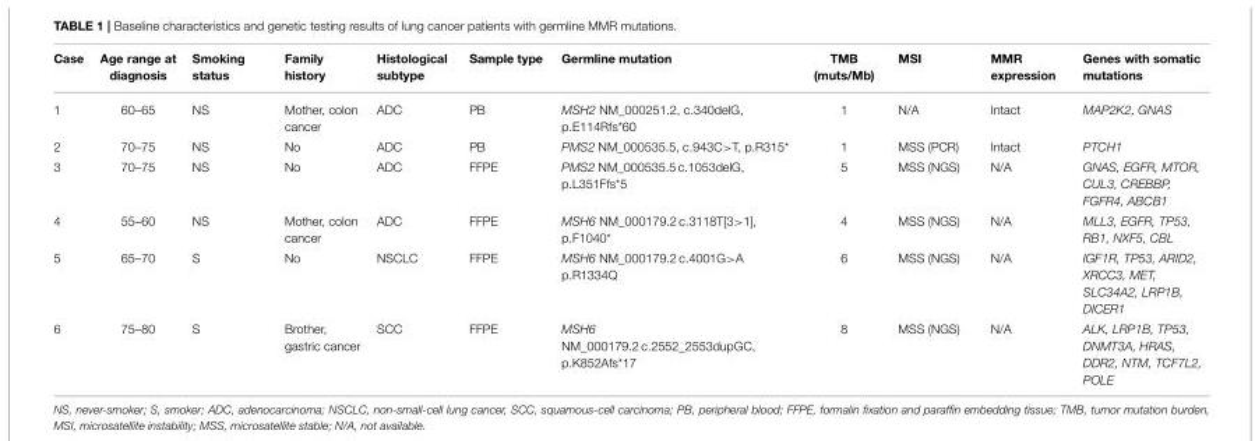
<table><thead><tr><td>Case</td><td>Age range at diagnosis</td><td>Smoking status</td><td>Family history</td><td>Histological subtype</td><td>Sample type</td><td>Germline mutation</td><td>TMB (muts/Mb)</td><td>MSI</td><td>MMR expression</td><td>Genes with somatic mutations</td></tr></thead><tbody><tr><td>1</td><td>60–65</td><td>NS</td><td>Mother, colon cancer</td><td>ADC</td><td>PB</td><td>MSH2 NM_000251.2, c.340delG, p.E114Rfs*60</td><td>1</td><td>N/A</td><td>Intact</td><td>MAP2K2, GNAS</td></tr><tr><td>2</td><td>70–75</td><td>NS</td><td>No</td><td>ADC</td><td>PB</td><td>PMS2 NM_000535.5, c.943C&gt;T, p.R315*</td><td>1</td><td>MSS (PCR)</td><td>Intact</td><td>PTCH1</td></tr><tr><td>3</td><td>70–75</td><td>NS</td><td>No</td><td>ADC</td><td>FFPE</td><td>PMS2 NM_000535.5 c.1053delG, p.L351Ffs*5</td><td>5</td><td>MSS (NGS)</td><td>N/A</td><td>GNAS, EGFR, MTOR, CUL3, CREBBP, FGFR4, ABCB1</td></tr><tr><td>4</td><td>55–60</td><td>NS</td><td>Mother, colon cancer</td><td>ADC</td><td>FFPE</td><td>MSH6 NM_000179.2 c.3118T[3&gt;1], p.F1040*</td><td>4</td><td>MSS (NGS)</td><td>N/A</td><td>MLL3, EGFR, TP53, RB1, NXF5, CBL</td></tr><tr><td>5</td><td>65–70</td><td>S</td><td>No</td><td>NSCLC</td><td>FFPE</td><td>MSH6 NM_000179.2 c.4001G&gt;A p.R1334Q</td><td>6</td><td>MSS (NGS)</td><td>N/A</td><td>IGF1R, TP53, ARID2, XRCC3, MET, SLC34A2, LRP1B, DICER1</td></tr><tr><td>6</td><td>75–80</td><td>S</td><td>Brother, gastric cancer</td><td>SCC</td><td>FFPE</td><td>MSH6 NM_000179.2 c.2552_2553dupGC, p.K852Afs*17</td><td>8</td><td>MSS (NGS)</td><td>N/A</td><td>ALK, LRP1B, TP53, DNMT3A, HRAS, DDR2, NTM, TCF7L2, POLE</td></tr></tbody></table>